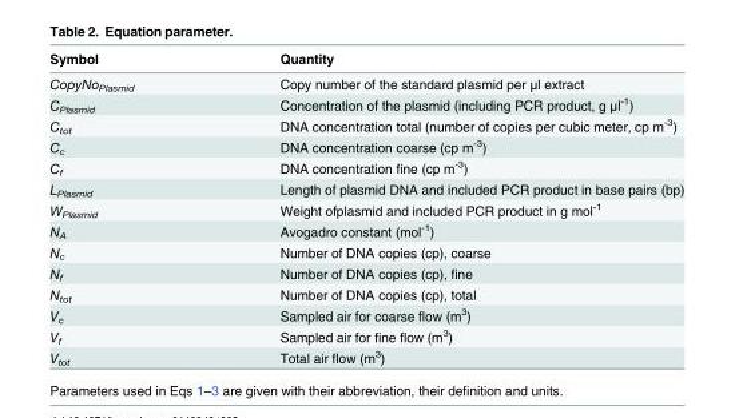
<table><thead><tr><td>Symbol</td><td>Quantity</td></tr></thead><tbody><tr><td>CopyNo<sub>Plasmid</sub></td><td>Copy number of the standard plasmid per μl extract</td></tr><tr><td>C<sub>Plasmid</sub></td><td>Concentration of the plasmid (including PCR product, g μl<sup>-1</sup>)</td></tr><tr><td>C<sub>tot</sub></td><td>DNA concentration total (number of copies per cubic meter, cp m<sup>-3</sup>)</td></tr><tr><td>C<sub>c</sub></td><td>DNA concentration coarse (cp m<sup>-3</sup>)</td></tr><tr><td>C<sub>f</sub></td><td>DNA concentration fine (cp m<sup>-3</sup>)</td></tr><tr><td>L<sub>Plasmid</sub></td><td>Length of plasmid DNA and included PCR product in base pairs (bp)</td></tr><tr><td>W<sub>Plasmid</sub></td><td>Weight ofplasmid and included PCR product in g mol<sup>-1</sup></td></tr><tr><td>N<sub>A</sub></td><td>Avogadro constant (mol<sup>-1</sup>)</td></tr><tr><td>N<sub>c</sub></td><td>Number of DNA copies (cp), coarse</td></tr><tr><td>N<sub>f</sub></td><td>Number of DNA copies (cp), fine</td></tr><tr><td>N<sub>tot</sub></td><td>Number of DNA copies (cp), total</td></tr><tr><td>V<sub>c</sub></td><td>Sampled air for coarse flow (m<sup>3</sup>)</td></tr><tr><td>V<sub>f</sub></td><td>Sampled air for fine flow (m<sup>3</sup>)</td></tr><tr><td>V<sub>tot</sub></td><td>Total air flow (m<sup>3</sup>)</td></tr></tbody></table>